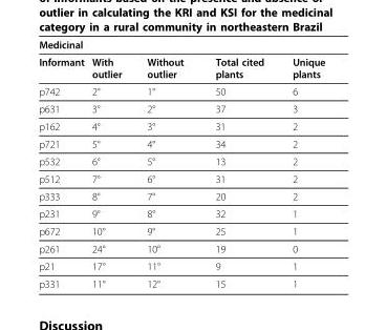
<table><thead><tr><td colspan="4">Medicinal</td><td rowspan="2">Unique plants</td></tr><tr><td>Informant</td><td>With outlier</td><td>Without outlier</td><td>Total cited plants</td></tr></thead><tbody><tr><td>p742</td><td>2°</td><td>1°</td><td>50</td><td>6</td></tr><tr><td>p631</td><td>3°</td><td>2°</td><td>37</td><td>3</td></tr><tr><td>p162</td><td>4°</td><td>3°</td><td>31</td><td>2</td></tr><tr><td>p721</td><td>5°</td><td>4°</td><td>34</td><td>2</td></tr><tr><td>p532</td><td>6°</td><td>5°</td><td>13</td><td>2</td></tr><tr><td>p512</td><td>7°</td><td>6°</td><td>31</td><td>2</td></tr><tr><td>p333</td><td>8°</td><td>7°</td><td>20</td><td>2</td></tr><tr><td>p231</td><td>9°</td><td>8°</td><td>32</td><td>1</td></tr><tr><td>p672</td><td>10°</td><td>9°</td><td>25</td><td>1</td></tr><tr><td>p261</td><td>24°</td><td>10°</td><td>19</td><td>0</td></tr><tr><td>p21</td><td>17°</td><td>11°</td><td>9</td><td>1</td></tr><tr><td>p331</td><td>11°</td><td>12°</td><td>15</td><td>1</td></tr></tbody></table>